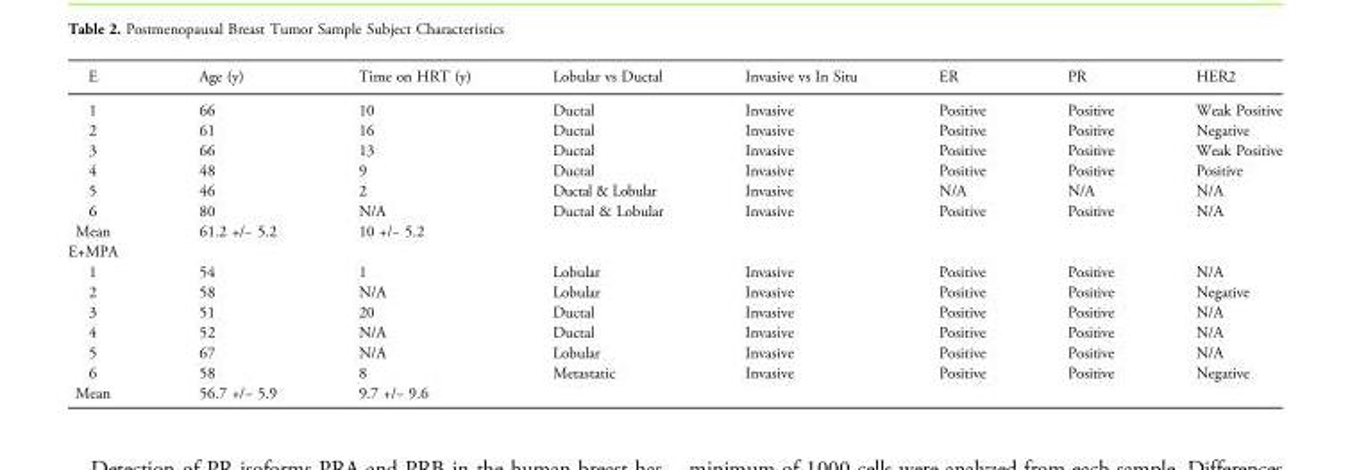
<table><thead><tr><td>E</td><td>Age (y)</td><td>Time on HRT (y)</td><td>Lobular vs Ductal</td><td>Invasive vs In Situ</td><td>ER</td><td>PR</td><td>HER2</td></tr></thead><tbody><tr><td>1</td><td>66</td><td>10</td><td>Ductal</td><td>Invasive</td><td>Positive</td><td>Positive</td><td>Weak Positive</td></tr><tr><td>2</td><td>61</td><td>16</td><td>Ductal</td><td>Invasive</td><td>Positive</td><td>Positive</td><td>Negative</td></tr><tr><td>3</td><td>66</td><td>13</td><td>Ductal</td><td>Invasive</td><td>Positive</td><td>Positive</td><td>Weak Positive</td></tr><tr><td>4</td><td>48</td><td>9</td><td>Ductal</td><td>Invasive</td><td>Positive</td><td>Positive</td><td>Positive</td></tr><tr><td>5</td><td>46</td><td>2</td><td>Ductal &amp; Lobular</td><td>Invasive</td><td>N/A</td><td>N/A</td><td>N/A</td></tr><tr><td>6</td><td>80</td><td>N/A</td><td>Ductal &amp; Lobular</td><td>Invasive</td><td>Positive</td><td>Positive</td><td>N/A</td></tr><tr><td>Mean</td><td>61.2 +/− 5.2</td><td>10 +/− 5.2</td><td></td><td></td><td></td><td></td><td></td></tr><tr><td colspan="8">E+MPA</td></tr><tr><td>1</td><td>54</td><td>1</td><td>Lobular</td><td>Invasive</td><td>Positive</td><td>Positive</td><td>N/A</td></tr><tr><td>2</td><td>58</td><td>N/A</td><td>Lobular</td><td>Invasive</td><td>Positive</td><td>Positive</td><td>Negative</td></tr><tr><td>3</td><td>51</td><td>20</td><td>Ductal</td><td>Invasive</td><td>Positive</td><td>Positive</td><td>N/A</td></tr><tr><td>4</td><td>52</td><td>N/A</td><td>Ductal</td><td>Invasive</td><td>Positive</td><td>Positive</td><td>N/A</td></tr><tr><td>5</td><td>67</td><td>N/A</td><td>Lobular</td><td>Invasive</td><td>Positive</td><td>Positive</td><td>N/A</td></tr><tr><td>6</td><td>58</td><td>8</td><td>Metastatic</td><td>Invasive</td><td>Positive</td><td>Positive</td><td>Negative</td></tr><tr><td>Mean</td><td>56.7 +/− 5.9</td><td>9.7 +/− 9.6</td><td></td><td></td><td></td><td></td><td></td></tr></tbody></table>